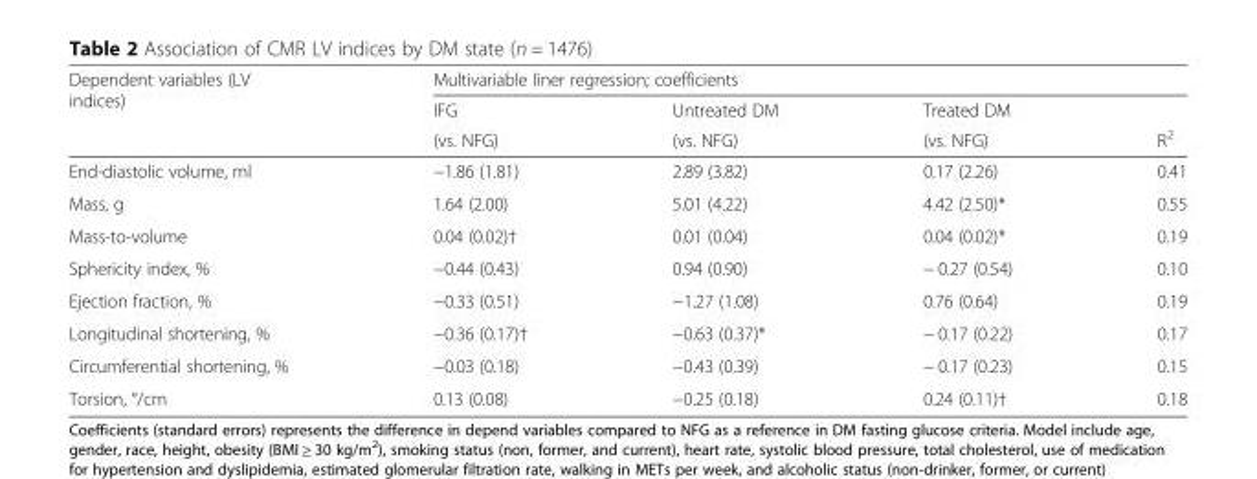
<table><thead><tr><td rowspan="3">Dependent variables (LV indices)</td><td colspan="4">Multivariable liner regression; coefficients</td></tr><tr><td rowspan="2">IFG (vs. NFG)</td><td rowspan="2">Untreated DM (vs. NFG)</td><td rowspan="2">Treated DM (vs. NFG)</td><td rowspan="2">R<sup>2</sup></td></tr><tr></tr></thead><tbody><tr><td>End-diastolic volume, ml</td><td>−1.86 (1.81)</td><td>2.89 (3.82)</td><td>0.17 (2.26)</td><td>0.41</td></tr><tr><td>Mass, g</td><td>1.64 (2.00)</td><td>5.01 (4.22)</td><td>4.42 (2.50)*</td><td>0.55</td></tr><tr><td>Mass-to-volume</td><td>0.04 (0.02)†</td><td>0.01 (0.04)</td><td>0.04 (0.02)*</td><td>0.19</td></tr><tr><td>Sphericity index, %</td><td>−0.44 (0.43)</td><td>0.94 (0.90)</td><td>− 0.27 (0.54)</td><td>0.10</td></tr><tr><td>Ejection fraction, %</td><td>−0.33 (0.51)</td><td>−1.27 (1.08)</td><td>0.76 (0.64)</td><td>0.19</td></tr><tr><td>Longitudinal shortening, %</td><td>−0.36 (0.17)†</td><td>−0.63 (0.37)*</td><td>− 0.17 (0.22)</td><td>0.17</td></tr><tr><td>Circumferential shortening, %</td><td>−0.03 (0.18)</td><td>−0.43 (0.39)</td><td>− 0.17 (0.23)</td><td>0.15</td></tr><tr><td>Torsion, °/cm</td><td>0.13 (0.08)</td><td>−0.25 (0.18)</td><td>0.24 (0.11)†</td><td>0.18</td></tr></tbody></table>